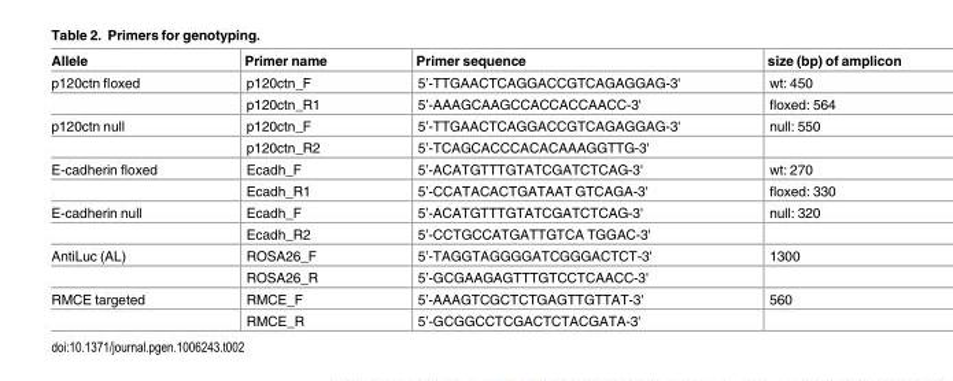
<table><thead><tr><td>Allele</td><td>Primer name</td><td>Primer sequence</td><td>size (bp) of amplicon</td></tr></thead><tbody><tr><td rowspan="2">p120ctn floxed</td><td>p120ctn_F</td><td>5’-TTGAACTCAGGACCGTCAGAGGAG-3&#x27;</td><td>wt: 450</td></tr><tr><td>p120ctn_R1</td><td>5’-AAAGCAAGCCACCACCAACC-3&#x27;</td><td>floxed: 564</td></tr><tr><td rowspan="2">p120ctn null</td><td>p120ctn_F</td><td>5’-TTGAACTCAGGACCGTCAGAGGAG-3&#x27;</td><td>null: 550</td></tr><tr><td>p120ctn_R2</td><td>5’-TCAGCACCCACACAAAGGTTG-3&#x27;</td><td></td></tr><tr><td rowspan="2">E-cadherin floxed</td><td>Ecadh_F</td><td>5’-ACATGTTTGTATCGATCTCAG-3&#x27;</td><td>wt: 270</td></tr><tr><td>Ecadh_R1</td><td>5’-CCATACACTGATAAT GTCAGA-3&#x27;</td><td>floxed: 330</td></tr><tr><td rowspan="2">E-cadherin null</td><td>Ecadh_F</td><td>5’-ACATGTTTGTATCGATCTCAG-3&#x27;</td><td>null: 320</td></tr><tr><td>Ecadh_R2</td><td>5’-CCTGCCATGATTGTCA TGGAC-3&#x27;</td><td></td></tr><tr><td rowspan="2">AntiLuc (AL)</td><td>ROSA26_F</td><td>5’-TAGGTAGGGGATCGGGACTCT-3&#x27;</td><td>1300</td></tr><tr><td>ROSA26_R</td><td>5’-GCGAAGAGTTTGTCCTCAACC-3&#x27;</td><td></td></tr><tr><td rowspan="2">RMCE targeted</td><td>RMCE_F</td><td>5’-AAAGTCGCTCTGAGTTGTTAT-3&#x27;</td><td>560</td></tr><tr><td>RMCE_R</td><td>5’-GCGGCCTCGACTCTACGATA-3&#x27;</td><td></td></tr></tbody></table>